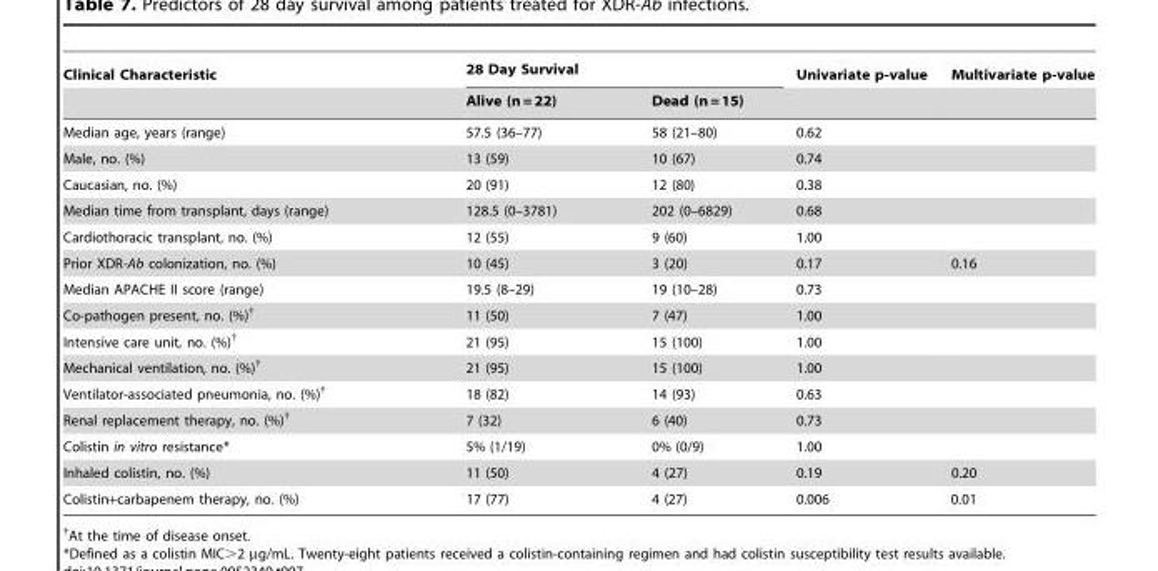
<table><thead><tr><td rowspan="2">Clinical Characteristic</td><td colspan="2">28 Day Survival</td><td rowspan="2">Univariate p-value</td><td rowspan="2">Multivariate p-value</td></tr><tr><td>Alive (n = 22)</td><td>Dead (n = 15)</td></tr></thead><tbody><tr><td>Median age, years (range)</td><td>57.5 (36–77)</td><td>58 (21–80)</td><td>0.62</td><td></td></tr><tr><td>Male, no. (%)</td><td>13 (59)</td><td>10 (67)</td><td>0.74</td><td></td></tr><tr><td>Caucasian, no. (%)</td><td>20 (91)</td><td>12 (80)</td><td>0.38</td><td></td></tr><tr><td>Median time from transplant, days (range)</td><td>128.5 (0–3781)</td><td>202 (0–6829)</td><td>0.68</td><td></td></tr><tr><td>Cardiothoracic transplant, no. (%)</td><td>12 (55)</td><td>9 (60)</td><td>1.00</td><td></td></tr><tr><td>Prior XDR-Ab colonization, no. (%)</td><td>10 (45)</td><td>3 (20)</td><td>0.17</td><td>0.16</td></tr><tr><td>Median APACHE II score (range)</td><td>19.5 (8–29)</td><td>19 (10–28)</td><td>0.73</td><td></td></tr><tr><td>Co-pathogen present, no. (%)†</td><td>11 (50)</td><td>7 (47)</td><td>1.00</td><td></td></tr><tr><td>Intensive care unit, no. (%)†</td><td>21 (95)</td><td>15 (100)</td><td>1.00</td><td></td></tr><tr><td>Mechanical ventilation, no. (%)†</td><td>21 (95)</td><td>15 (100)</td><td>1.00</td><td></td></tr><tr><td>Ventilator-associated pneumonia, no. (%)†</td><td>18 (82)</td><td>14 (93)</td><td>0.63</td><td></td></tr><tr><td>Renal replacement therapy, no. (%)†</td><td>7 (32)</td><td>6 (40)</td><td>0.73</td><td></td></tr><tr><td>Colistin in vitro resistance*</td><td>5% (1/19)</td><td>0% (0/9)</td><td>1.00</td><td></td></tr><tr><td>Inhaled colistin, no. (%)</td><td>11 (50)</td><td>4 (27)</td><td>0.19</td><td>0.20</td></tr><tr><td>Colistin+carbapenem therapy, no. (%)</td><td>17 (77)</td><td>4 (27)</td><td>0.006</td><td>0.01</td></tr></tbody></table>